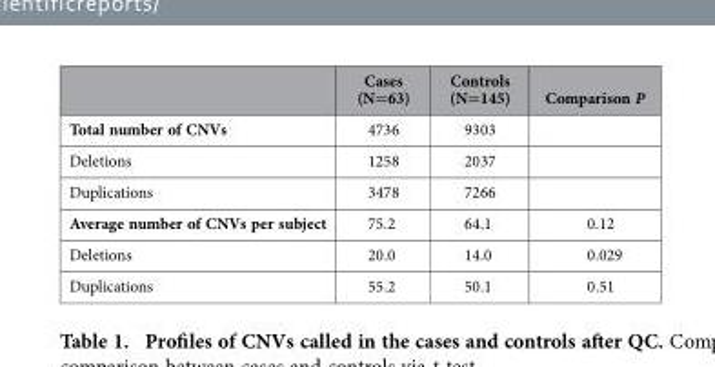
<table><thead><tr><td></td><td>Cases (N=63)</td><td>Controls (N=145)</td><td>Comparison P</td></tr></thead><tbody><tr><td>Total number of CNVs</td><td>4736</td><td>9303</td><td></td></tr><tr><td>Deletions</td><td>1258</td><td>2037</td><td></td></tr><tr><td>Duplications</td><td>3478</td><td>7266</td><td></td></tr><tr><td>Average number of CNVs per subject</td><td>75.2</td><td>64.1</td><td>0.12</td></tr><tr><td>Deletions</td><td>20.0</td><td>14.0</td><td>0.029</td></tr><tr><td>Duplications</td><td>55.2</td><td>50.1</td><td>0.51</td></tr></tbody></table>